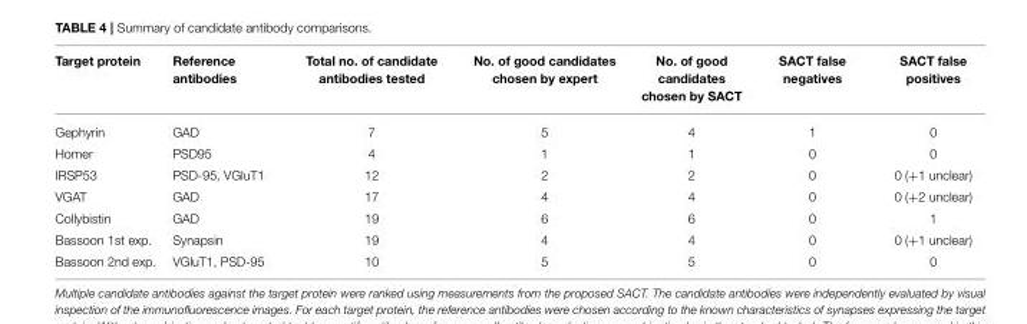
<table><thead><tr><td>Target protein</td><td>Reference antibodies</td><td>Total no. of candidate antibodies tested</td><td>No. of good candidates chosen by expert</td><td>No. of good candidates chosen by SACT</td><td>SACT false negatives</td><td>SACT false positives</td></tr></thead><tbody><tr><td>Gephyrin</td><td>GAD</td><td>7</td><td>5</td><td>4</td><td>1</td><td>0</td></tr><tr><td>Homer</td><td>PSD95</td><td>4</td><td>1</td><td>1</td><td>0</td><td>0</td></tr><tr><td>IRSP53</td><td>PSD-95, VGluT1</td><td>12</td><td>2</td><td>2</td><td>0</td><td>0 (+1 unclear)</td></tr><tr><td>VGAT</td><td>GAD</td><td>17</td><td>4</td><td>4</td><td>0</td><td>0 (+2 unclear)</td></tr><tr><td>Collybistin</td><td>GAD</td><td>19</td><td>6</td><td>6</td><td>0</td><td>1</td></tr><tr><td>Bassoon 1st exp.</td><td>Synapsin</td><td>19</td><td>4</td><td>4</td><td>0</td><td>0 (+1 unclear)</td></tr><tr><td>Bassoon 2nd exp.</td><td>VGluT1, PSD-95</td><td>10</td><td>5</td><td>5</td><td>0</td><td>0</td></tr></tbody></table>